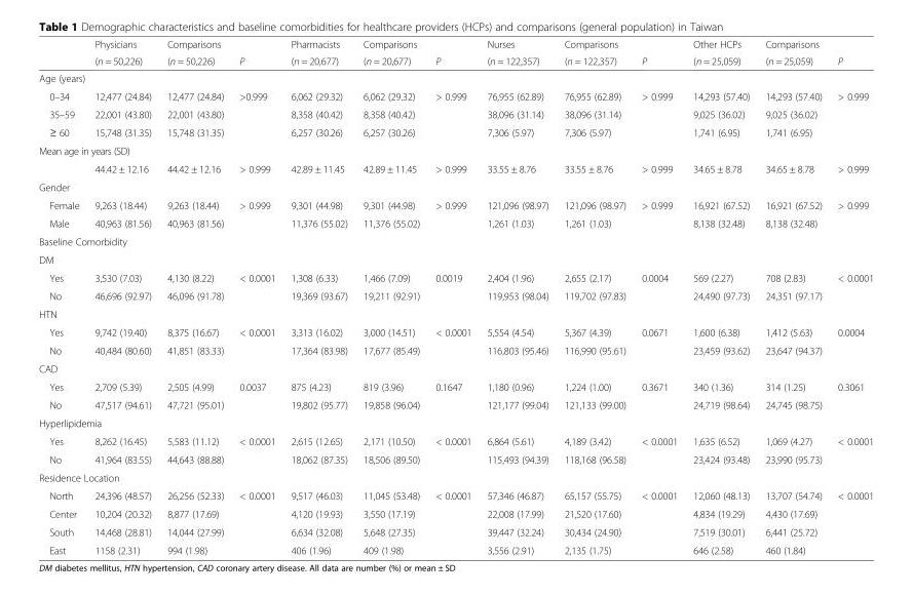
<table><thead><tr><td rowspan="2"></td><td rowspan="2">Physicians (n = 50,226)</td><td rowspan="2">Comparisons (n = 50,226)</td><td rowspan="2">P</td><td rowspan="2">Pharmacists (n = 20,677)</td><td rowspan="2">Comparisons (n = 20,677)</td><td rowspan="2">P</td><td rowspan="2">Nurses (n = 122,357)</td><td rowspan="2">Comparisons (n = 122,357)</td><td rowspan="2">P</td><td rowspan="2">Other HCPs (n = 25,059)</td><td rowspan="2">Comparisons (n = 25,059)</td><td rowspan="2">P</td></tr><tr></tr></thead><tbody><tr><td colspan="13">Age (years)</td></tr><tr><td>0–34</td><td>12,477 (24.84)</td><td>12,477 (24.84)</td><td>&gt;0.999</td><td>6,062 (29.32)</td><td>6,062 (29.32)</td><td>&gt; 0.999</td><td>76,955 (62.89)</td><td>76,955 (62.89)</td><td>&gt; 0.999</td><td>14,293 (57.40)</td><td>14,293 (57.40)</td><td>&gt; 0.999</td></tr><tr><td>35–59</td><td>22,001 (43.80)</td><td>22,001 (43.80)</td><td></td><td>8,358 (40.42)</td><td>8,358 (40.42)</td><td></td><td>38,096 (31.14)</td><td>38,096 (31.14)</td><td></td><td>9,025 (36.02)</td><td>9,025 (36.02)</td><td></td></tr><tr><td>≥ 60</td><td>15,748 (31.35)</td><td>15,748 (31.35)</td><td></td><td>6,257 (30.26)</td><td>6,257 (30.26)</td><td></td><td>7,306 (5.97)</td><td>7,306 (5.97)</td><td></td><td>1,741 (6.95)</td><td>1,741 (6.95)</td><td></td></tr><tr><td colspan="13">Mean age in years (SD)</td></tr><tr><td></td><td>44.42 ± 12.16</td><td>44.42 ± 12.16</td><td>&gt; 0.999</td><td>42.89 ± 11.45</td><td>42.89 ± 11.45</td><td>&gt; 0.999</td><td>33.55 ± 8.76</td><td>33.55 ± 8.76</td><td>&gt; 0.999</td><td>34.65 ± 8.78</td><td>34.65 ± 8.78</td><td>&gt; 0.999</td></tr><tr><td colspan="13">Gender</td></tr><tr><td>Female</td><td>9,263 (18.44)</td><td>9,263 (18.44)</td><td>&gt; 0.999</td><td>9,301 (44.98)</td><td>9,301 (44.98)</td><td>&gt; 0.999</td><td>121,096 (98.97)</td><td>121,096 (98.97)</td><td>&gt; 0.999</td><td>16,921 (67.52)</td><td>16,921 (67.52)</td><td>&gt; 0.999</td></tr><tr><td>Male</td><td>40,963 (81.56)</td><td>40,963 (81.56)</td><td></td><td>11,376 (55.02)</td><td>11,376 (55.02)</td><td></td><td>1,261 (1.03)</td><td>1,261 (1.03)</td><td></td><td>8,138 (32.48)</td><td>8,138 (32.48)</td><td></td></tr><tr><td colspan="13">Baseline Comorbidity</td></tr><tr><td colspan="13">DM</td></tr><tr><td>Yes</td><td>3,530 (7.03)</td><td>4,130 (8.22)</td><td>&lt; 0.0001</td><td>1,308 (6.33)</td><td>1,466 (7.09)</td><td>0.0019</td><td>2,404 (1.96)</td><td>2,655 (2.17)</td><td>0.0004</td><td>569 (2.27)</td><td>708 (2.83)</td><td>&lt; 0.0001</td></tr><tr><td>No</td><td>46,696 (92.97)</td><td>46,096 (91.78)</td><td></td><td>19,369 (93.67)</td><td>19,211 (92.91)</td><td></td><td>119,953 (98.04)</td><td>119,702 (97.83)</td><td></td><td>24,490 (97.73)</td><td>24,351 (97.17)</td><td></td></tr><tr><td colspan="13">HTN</td></tr><tr><td>Yes</td><td>9,742 (19.40)</td><td>8,375 (16.67)</td><td>&lt; 0.0001</td><td>3,313 (16.02)</td><td>3,000 (14.51)</td><td>&lt; 0.0001</td><td>5,554 (4.54)</td><td>5,367 (4.39)</td><td>0.0671</td><td>1,600 (6.38)</td><td>1,412 (5.63)</td><td>0.0004</td></tr><tr><td>No</td><td>40,484 (80.60)</td><td>41,851 (83.33)</td><td></td><td>17,364 (83.98)</td><td>17,677 (85.49)</td><td></td><td>116,803 (95.46)</td><td>116,990 (95.61)</td><td></td><td>23,459 (93.62)</td><td>23,647 (94.37)</td><td></td></tr><tr><td colspan="13">CAD</td></tr><tr><td>Yes</td><td>2,709 (5.39)</td><td>2,505 (4.99)</td><td>0.0037</td><td>875 (4.23)</td><td>819 (3.96)</td><td>0.1647</td><td>1,180 (0.96)</td><td>1,224 (1.00)</td><td>0.3671</td><td>340 (1.36)</td><td>314 (1.25)</td><td>0.3061</td></tr><tr><td>No</td><td>47,517 (94.61)</td><td>47,721 (95.01)</td><td></td><td>19,802 (95.77)</td><td>19,858 (96.04)</td><td></td><td>121,177 (99.04)</td><td>121,133 (99.00)</td><td></td><td>24,719 (98.64)</td><td>24,745 (98.75)</td><td></td></tr><tr><td colspan="13">Hyperlipidemia</td></tr><tr><td>Yes</td><td>8,262 (16.45)</td><td>5,583 (11.12)</td><td>&lt; 0.0001</td><td>2,615 (12.65)</td><td>2,171 (10.50)</td><td>&lt; 0.0001</td><td>6,864 (5.61)</td><td>4,189 (3.42)</td><td>&lt; 0.0001</td><td>1,635 (6.52)</td><td>1,069 (4.27)</td><td>&lt; 0.0001</td></tr><tr><td>No</td><td>41,964 (83.55)</td><td>44,643 (88.88)</td><td></td><td>18,062 (87.35)</td><td>18,506 (89.50)</td><td></td><td>115,493 (94.39)</td><td>118,168 (96.58)</td><td></td><td>23,424 (93.48)</td><td>23,990 (95.73)</td><td></td></tr><tr><td colspan="13">Residence Location</td></tr><tr><td>North</td><td>24,396 (48.57)</td><td>26,256 (52.33)</td><td>&lt; 0.0001</td><td>9,517 (46.03)</td><td>11,045 (53.48)</td><td>&lt; 0.0001</td><td>57,346 (46.87)</td><td>65,157 (55.75)</td><td>&lt; 0.0001</td><td>12,060 (48.13)</td><td>13,707 (54.74)</td><td>&lt; 0.0001</td></tr><tr><td>Center</td><td>10,204 (20.32)</td><td>8,877 (17.69)</td><td></td><td>4,120 (19.93)</td><td>3,550 (17.19)</td><td></td><td>22,008 (17.99)</td><td>21,520 (17.60)</td><td></td><td>4,834 (19.29)</td><td>4,430 (17.69)</td><td></td></tr><tr><td>South</td><td>14,468 (28.81)</td><td>14,044 (27.99)</td><td></td><td>6,634 (32.08)</td><td>5,648 (27.35)</td><td></td><td>39,447 (32.24)</td><td>30,434 (24.90)</td><td></td><td>7,519 (30.01)</td><td>6,441 (25.72)</td><td></td></tr><tr><td>East</td><td>1158 (2.31)</td><td>994 (1.98)</td><td></td><td>406 (1.96)</td><td>409 (1.98)</td><td></td><td>3,556 (2.91)</td><td>2,135 (1.75)</td><td></td><td>646 (2.58)</td><td>460 (1.84)</td><td></td></tr></tbody></table>